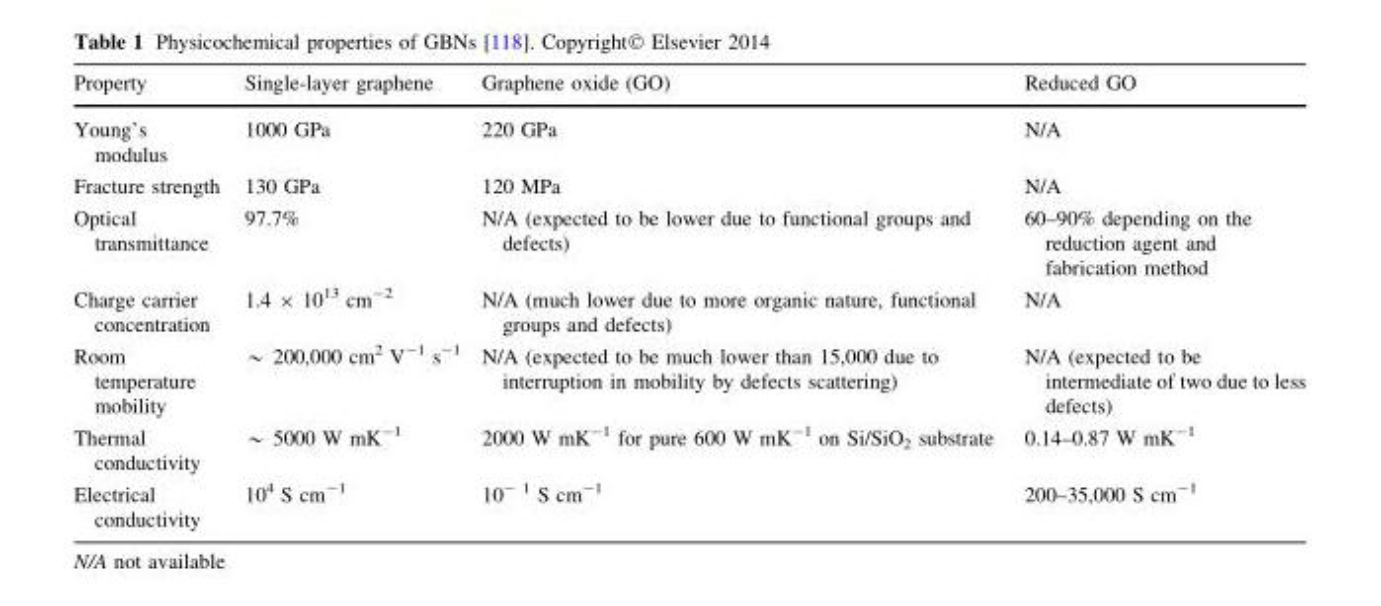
<table><thead><tr><td>Property</td><td>Single-layer graphene</td><td>Graphene oxide (GO)</td><td>Reduced GO</td></tr></thead><tbody><tr><td>Young’s modulus</td><td>1000 GPa</td><td>220 GPa</td><td>N/A</td></tr><tr><td>Fracture strength</td><td>130 GPa</td><td>120 MPa</td><td>N/A</td></tr><tr><td>Optical transmittance</td><td>97.7%</td><td>N/A (expected to be lower due to functional groups and defects)</td><td>60–90% depending on the reduction agent and fabrication method</td></tr><tr><td>Charge carrier concentration</td><td>1.4 × 10<sup>13</sup> cm<sup>-2</sup></td><td>N/A (much lower due to more organic nature, functional groups and defects)</td><td>N/A</td></tr><tr><td>Room temperature mobility</td><td>* 200,000 cm2 V-1 s-1</td><td>N/A (expected to be much lower than 15,000 due to interruption in mobility by defects scattering)</td><td>N/A (expected to be intermediate of two due to less defects)</td></tr><tr><td>Thermal conductivity</td><td>* 5000 W mK-1</td><td>2000 W mK<sup>-1</sup> for pure 600 W mK<sup>-1</sup> on Si/SiO<sub>2</sub> substrate</td><td>0.14–0.87 W mK<sup>-1</sup></td></tr><tr><td>Electrical conductivity</td><td>10<sup>4</sup> S cm<sup>-1</sup></td><td>10<sup>- 1</sup> S cm<sup>-1</sup></td><td>200–35,000 S cm<sup>-1</sup></td></tr></tbody></table>